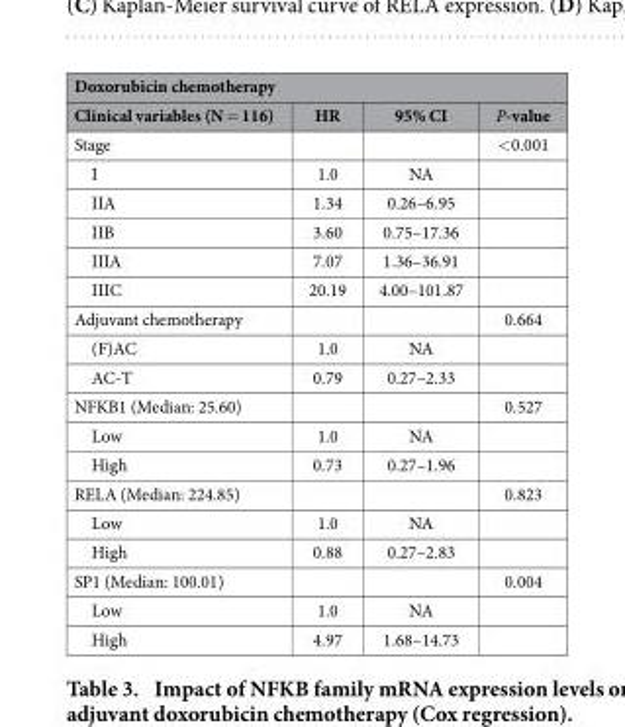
<table><thead><tr><td colspan="4">Doxorubicin chemotherapy</td></tr><tr><td>Clinical variables (N = 116)</td><td>HR</td><td>95% CI</td><td>P-value</td></tr></thead><tbody><tr><td>Stage</td><td></td><td></td><td>&lt; 0.001</td></tr><tr><td>I</td><td>1.0</td><td>NA</td><td></td></tr><tr><td>IIA</td><td>1.34</td><td>0.26–6.95</td><td></td></tr><tr><td>IIB</td><td>3.60</td><td>0.75–17.36</td><td></td></tr><tr><td>IIIA</td><td>7.07</td><td>1.36–36.91</td><td></td></tr><tr><td>IIIC</td><td>20.19</td><td>4.00–101.87</td><td></td></tr><tr><td>Adjuvant chemotherapy</td><td></td><td></td><td>0.664</td></tr><tr><td>(F)AC</td><td>1.0</td><td>NA</td><td></td></tr><tr><td>AC-T</td><td>0.79</td><td>0.27–2.33</td><td></td></tr><tr><td>NFKB1 (Median: 25.60)</td><td></td><td></td><td>0.527</td></tr><tr><td>Low</td><td>1.0</td><td>NA</td><td></td></tr><tr><td>High</td><td>0.73</td><td>0.27–1.96</td><td></td></tr><tr><td>RELA (Median: 224.85)</td><td></td><td></td><td>0.823</td></tr><tr><td>Low</td><td>1.0</td><td>NA</td><td></td></tr><tr><td>High</td><td>0.88</td><td>0.27–2.83</td><td></td></tr><tr><td>SP1 (Median: 100.01)</td><td></td><td></td><td>0.004</td></tr><tr><td>Low</td><td>1.0</td><td>NA</td><td></td></tr><tr><td>High</td><td>4.97</td><td>1.68–14.73</td><td></td></tr></tbody></table>